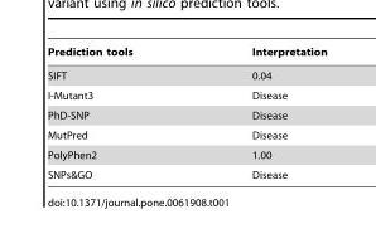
<table><thead><tr><td>Prediction tools</td><td>Interpretation</td></tr></thead><tbody><tr><td>SIFT</td><td>0.04</td></tr><tr><td>I-Mutant3</td><td>Disease</td></tr><tr><td>PhD-SNP</td><td>Disease</td></tr><tr><td>MutPred</td><td>Disease</td></tr><tr><td>PolyPhen2</td><td>1.00</td></tr><tr><td>SNPs&amp;GO</td><td>Disease</td></tr></tbody></table>